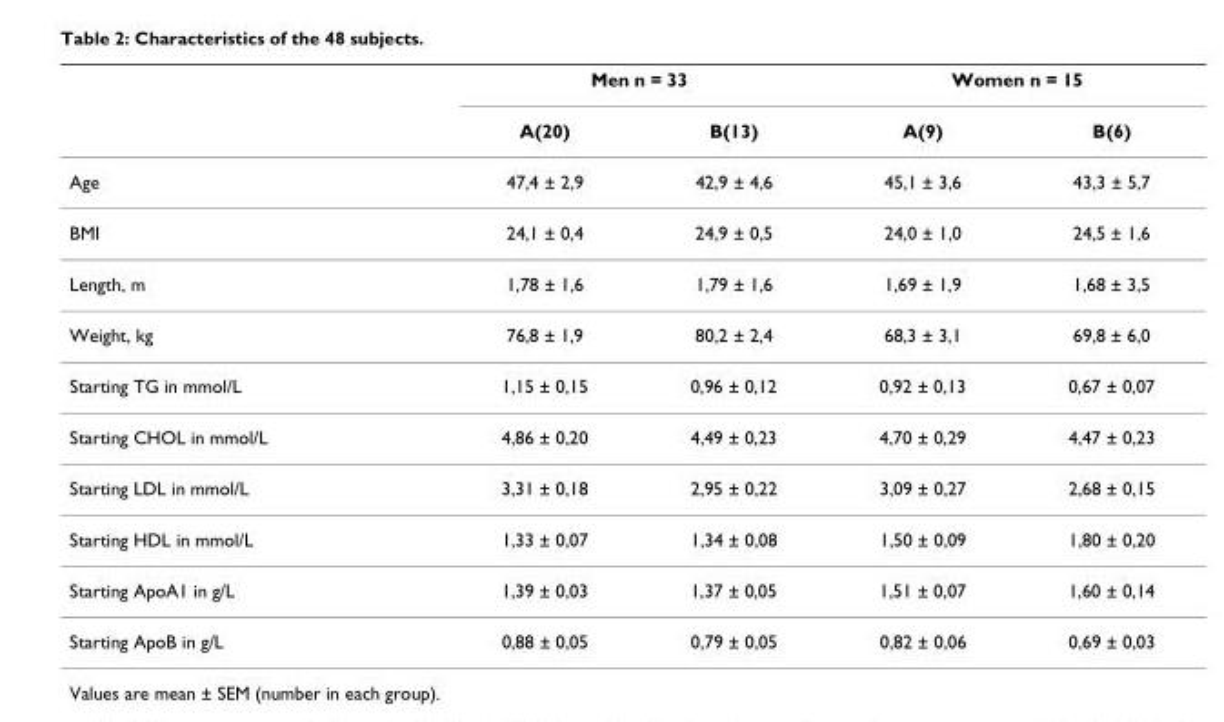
<table><thead><tr><td rowspan="2"></td><td colspan="2">Men n = 33</td><td colspan="2">Women n = 15</td></tr><tr><td>A(20)</td><td>B(13)</td><td>A(9)</td><td>B(6)</td></tr></thead><tbody><tr><td>Age</td><td>47,4 ± 2,9</td><td>42,9 ± 4,6</td><td>45,1 ± 3,6</td><td>43,3 ± 5,7</td></tr><tr><td>BMI</td><td>24,1 ± 0,4</td><td>24,9 ± 0,5</td><td>24,0 ± 1,0</td><td>24,5 ± 1,6</td></tr><tr><td>Length, m</td><td>1,78 ± 1,6</td><td>1,79 ± 1,6</td><td>1,69 ± 1,9</td><td>1,68 ± 3,5</td></tr><tr><td>Weight, kg</td><td>76,8 ± 1,9</td><td>80,2 ± 2,4</td><td>68,3 ± 3,1</td><td>69,8 ± 6,0</td></tr><tr><td>Starting TG in mmol/L</td><td>1,15 ± 0,15</td><td>0,96 ± 0,12</td><td>0,92 ± 0,13</td><td>0,67 ± 0,07</td></tr><tr><td>Starting CHOL in mmol/L</td><td>4,86 ± 0,20</td><td>4,49 ± 0,23</td><td>4,70 ± 0,29</td><td>4,47 ± 0,23</td></tr><tr><td>Starting LDL in mmol/L</td><td>3,31 ± 0,18</td><td>2,95 ± 0,22</td><td>3,09 ± 0,27</td><td>2,68 ± 0,15</td></tr><tr><td>Starting HDL in mmol/L</td><td>1,33 ± 0,07</td><td>1,34 ± 0,08</td><td>1,50 ± 0,09</td><td>1,80 ± 0,20</td></tr><tr><td>Starting ApoA1 in g/L</td><td>1,39 ± 0,03</td><td>1,37 ± 0,05</td><td>1,51 ± 0,07</td><td>1,60 ± 0,14</td></tr><tr><td>Starting ApoB in g/L</td><td>0,88 ± 0,05</td><td>0,79 ± 0,05</td><td>0,82 ± 0,06</td><td>0,69 ± 0,03</td></tr></tbody></table>